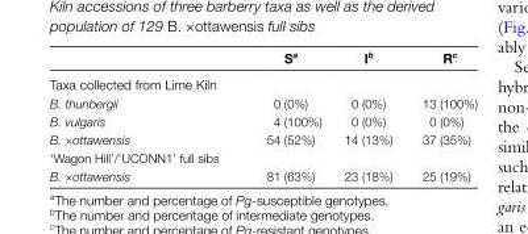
<table><thead><tr><td></td><td>S<sup>a</sup></td><td>I<sup>b</sup></td><td>R<sup>c</sup></td></tr></thead><tbody><tr><td colspan="4">Taxa collected from Lime Kiln</td></tr><tr><td>B. thunbergii</td><td>0 (0%)</td><td>0 (0%)</td><td>13 (100%)</td></tr><tr><td>B. vulgaris</td><td>4 (100%)</td><td>0 (0%)</td><td>0 (0%)</td></tr><tr><td>B. ×ottawensis</td><td>54 (52%)</td><td>14 (13%)</td><td>37 (35%)</td></tr><tr><td colspan="4">‘Wagon Hill’/‘UCONN1’ full sibs</td></tr><tr><td>B. ×ottawensis</td><td>81 (63%)</td><td>23 (18%)</td><td>25 (19%)</td></tr></tbody></table>